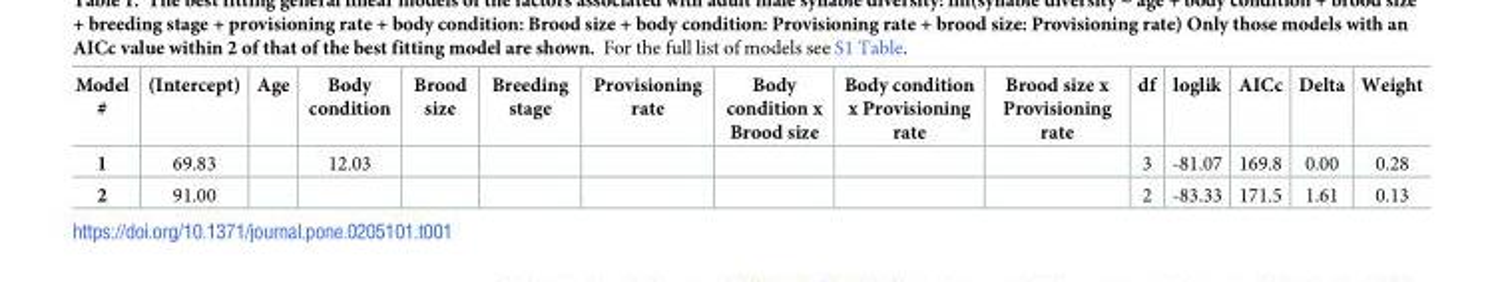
<table><thead><tr><td>Model #</td><td>(Intercept)</td><td>Age</td><td>Body condition</td><td>Brood size</td><td>Breeding stage</td><td>Provisioning rate</td><td>Body condition x Brood size</td><td>Body condition x Provisioning rate</td><td>Brood size x Provisioning rate</td><td>df</td><td>loglik</td><td>AICc</td><td>Delta</td><td>Weight</td></tr></thead><tbody><tr><td>1</td><td>69.83</td><td></td><td>12.03</td><td></td><td></td><td></td><td></td><td></td><td></td><td>3</td><td>-81.07</td><td>169.8</td><td>0.00</td><td>0.28</td></tr><tr><td>2</td><td>91.00</td><td></td><td></td><td></td><td></td><td></td><td></td><td></td><td></td><td>2</td><td>-83.33</td><td>171.5</td><td>1.61</td><td>0.13</td></tr></tbody></table>